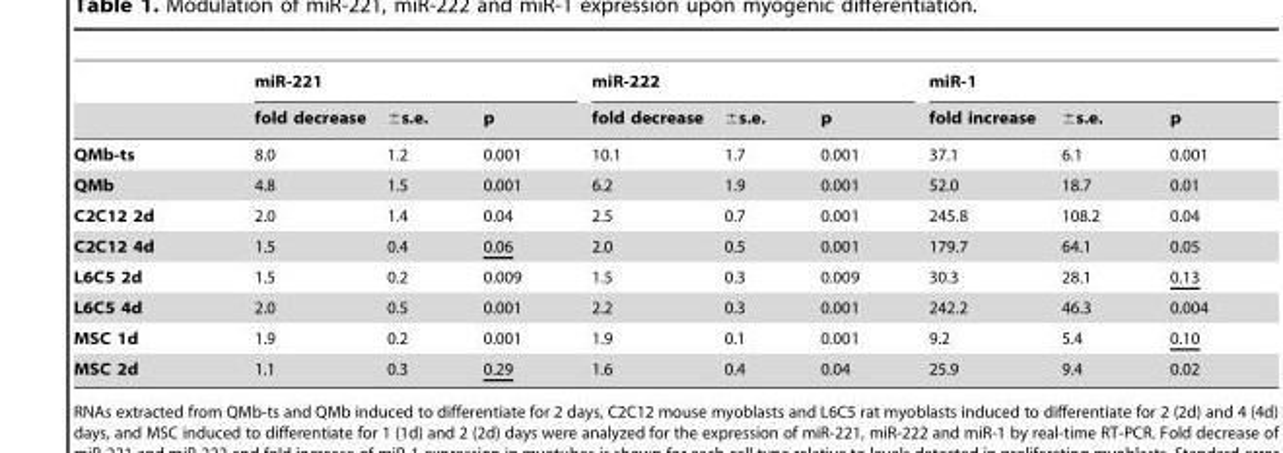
<table><thead><tr><td rowspan="2"></td><td colspan="3">miR-221</td><td colspan="3">miR-222</td><td colspan="3">miR-1</td></tr><tr><td>fold decrease</td><td>±s.e.</td><td>p</td><td>fold decrease</td><td>±s.e.</td><td>p</td><td>fold increase</td><td>±s.e.</td><td>p</td></tr></thead><tbody><tr><td>QMb-ts</td><td>8.0</td><td>1.2</td><td>0.001</td><td>10.1</td><td>1.7</td><td>0.001</td><td>37.1</td><td>6.1</td><td>0.001</td></tr><tr><td>QMb</td><td>4.8</td><td>1.5</td><td>0.001</td><td>6.2</td><td>1.9</td><td>0.001</td><td>52.0</td><td>18.7</td><td>0.01</td></tr><tr><td>C2C12 2d</td><td>2.0</td><td>1.4</td><td>0.04</td><td>2.5</td><td>0.7</td><td>0.001</td><td>245.8</td><td>108.2</td><td>0.04</td></tr><tr><td>C2C12 4d</td><td>1.5</td><td>0.4</td><td>0.06</td><td>2.0</td><td>0.5</td><td>0.001</td><td>179.7</td><td>64.1</td><td>0.05</td></tr><tr><td>L6C5 2d</td><td>1.5</td><td>0.2</td><td>0.009</td><td>1.5</td><td>0.3</td><td>0.009</td><td>30.3</td><td>28.1</td><td>0.13</td></tr><tr><td>L6C5 4d</td><td>2.0</td><td>0.5</td><td>0.001</td><td>2.2</td><td>0.3</td><td>0.001</td><td>242.2</td><td>46.3</td><td>0.004</td></tr><tr><td>MSC 1d</td><td>1.9</td><td>0.2</td><td>0.001</td><td>1.9</td><td>0.1</td><td>0.001</td><td>9.2</td><td>5.4</td><td>0.10</td></tr><tr><td>MSC 2d</td><td>1.1</td><td>0.3</td><td>0.29</td><td>1.6</td><td>0.4</td><td>0.04</td><td>25.9</td><td>9.4</td><td>0.02</td></tr></tbody></table>